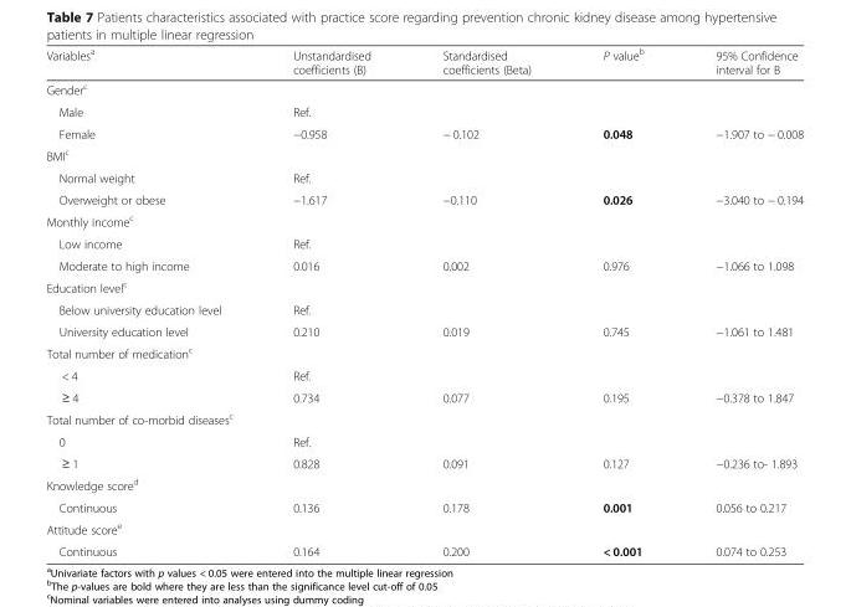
<table><thead><tr><td>Variables<sup>a</sup></td><td>Unstandardised coefficients (B)</td><td>Standardised coefficients (Beta)</td><td>P value<sup>b</sup></td><td>95% Confidence interval for B</td></tr></thead><tbody><tr><td colspan="5">Gender<sup>c</sup></td></tr><tr><td>Male</td><td>Ref.</td><td></td><td></td><td></td></tr><tr><td>Female</td><td>−0.958</td><td>− 0.102</td><td>0.048</td><td>−1.907 to − 0.008</td></tr><tr><td colspan="5">BMI<sup>c</sup></td></tr><tr><td>Normal weight</td><td>Ref.</td><td></td><td></td><td></td></tr><tr><td>Overweight or obese</td><td>−1.617</td><td>−0.110</td><td>0.026</td><td>−3.040 to − 0.194</td></tr><tr><td colspan="5">Monthly income<sup>c</sup></td></tr><tr><td>Low income</td><td>Ref.</td><td></td><td></td><td></td></tr><tr><td>Moderate to high income</td><td>0.016</td><td>0.002</td><td>0.976</td><td>−1.066 to 1.098</td></tr><tr><td colspan="5">Education level<sup>c</sup></td></tr><tr><td>Below university education level</td><td>Ref.</td><td></td><td></td><td></td></tr><tr><td>University education level</td><td>0.210</td><td>0.019</td><td>0.745</td><td>−1.061 to 1.481</td></tr><tr><td colspan="5">Total number of medication<sup>c</sup></td></tr><tr><td>&lt; 4</td><td>Ref.</td><td></td><td></td><td></td></tr><tr><td>≥ 4</td><td>0.734</td><td>0.077</td><td>0.195</td><td>−0.378 to 1.847</td></tr><tr><td colspan="5">Total number of co-morbid diseases<sup>c</sup></td></tr><tr><td>0</td><td>Ref.</td><td></td><td></td><td></td></tr><tr><td>≥ 1</td><td>0.828</td><td>0.091</td><td>0.127</td><td>−0.236 to- 1.893</td></tr><tr><td colspan="5">Knowledge score<sup>d</sup></td></tr><tr><td>Continuous</td><td>0.136</td><td>0.178</td><td>0.001</td><td>0.056 to 0.217</td></tr><tr><td colspan="5">Attitude score<sup>e</sup></td></tr><tr><td>Continuous</td><td>0.164</td><td>0.200</td><td>&lt; 0.001</td><td>0.074 to 0.253</td></tr></tbody></table>